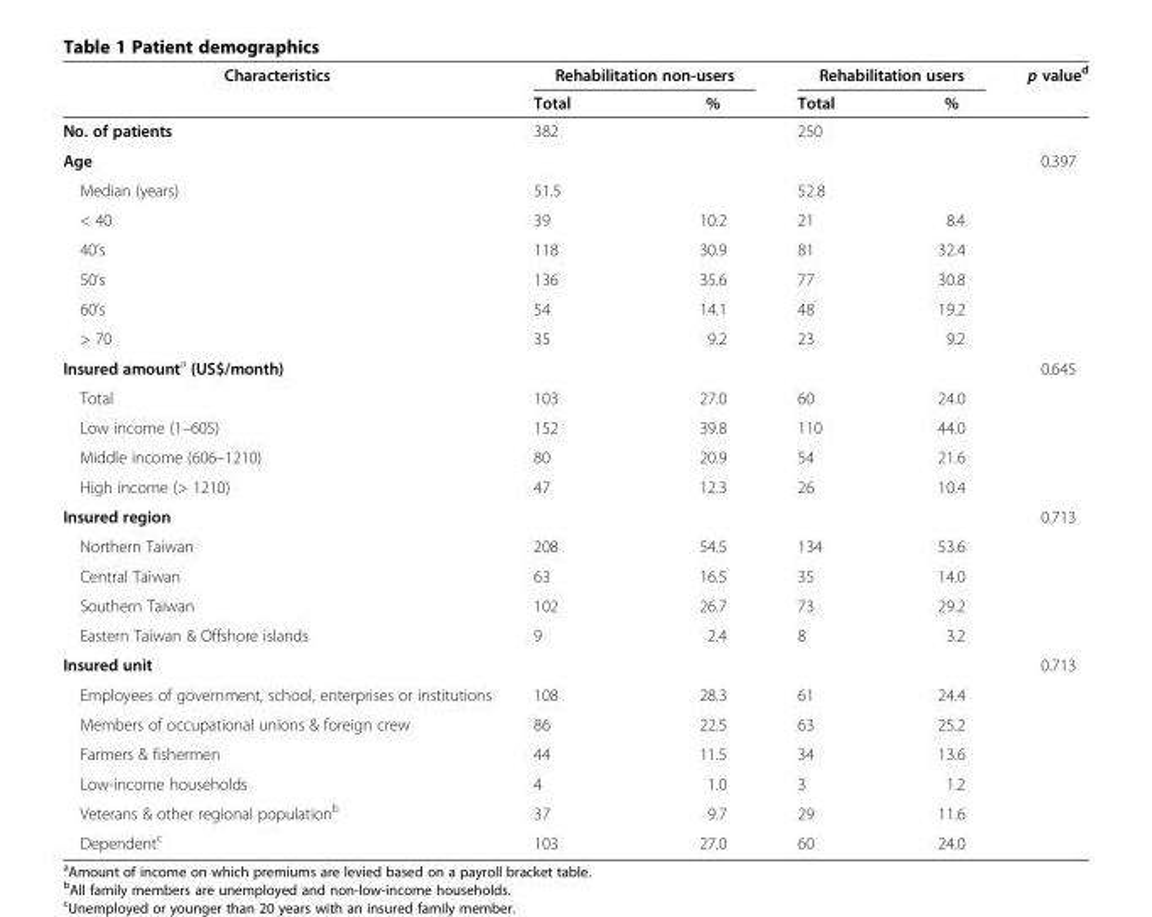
<table><thead><tr><td rowspan="2">Characteristics</td><td colspan="2">Rehabilitation non-users</td><td colspan="2">Rehabilitation users</td><td rowspan="2">p value<sup>d</sup></td></tr><tr><td>Total</td><td>%</td><td>Total</td><td>%</td></tr></thead><tbody><tr><td>No. of patients</td><td>382</td><td></td><td>250</td><td></td><td></td></tr><tr><td>Age</td><td></td><td></td><td></td><td></td><td>0.397</td></tr><tr><td>Median (years)</td><td>51.5</td><td></td><td>52.8</td><td></td><td></td></tr><tr><td>&lt; 40</td><td>39</td><td>10.2</td><td>21</td><td>8.4</td><td></td></tr><tr><td>40’s</td><td>118</td><td>30.9</td><td>81</td><td>32.4</td><td></td></tr><tr><td>50’s</td><td>136</td><td>35.6</td><td>77</td><td>30.8</td><td></td></tr><tr><td>60’s</td><td>54</td><td>14.1</td><td>48</td><td>19.2</td><td></td></tr><tr><td>&gt; 70</td><td>35</td><td>9.2</td><td>23</td><td>9.2</td><td></td></tr><tr><td>Insured amount<sup>a</sup> (US$/month)</td><td></td><td></td><td></td><td></td><td>0.645</td></tr><tr><td>Total</td><td>103</td><td>27.0</td><td>60</td><td>24.0</td><td></td></tr><tr><td>Low income (1–605)</td><td>152</td><td>39.8</td><td>110</td><td>44.0</td><td></td></tr><tr><td>Middle income (606–1210)</td><td>80</td><td>20.9</td><td>54</td><td>21.6</td><td></td></tr><tr><td>High income (&gt; 1210)</td><td>47</td><td>12.3</td><td>26</td><td>10.4</td><td></td></tr><tr><td>Insured region</td><td></td><td></td><td></td><td></td><td>0.713</td></tr><tr><td>Northern Taiwan</td><td>208</td><td>54.5</td><td>134</td><td>53.6</td><td></td></tr><tr><td>Central Taiwan</td><td>63</td><td>16.5</td><td>35</td><td>14.0</td><td></td></tr><tr><td>Southern Taiwan</td><td>102</td><td>26.7</td><td>73</td><td>29.2</td><td></td></tr><tr><td>Eastern Taiwan &amp; Offshore islands</td><td>9</td><td>2.4</td><td>8</td><td>3.2</td><td></td></tr><tr><td>Insured unit</td><td></td><td></td><td></td><td></td><td>0.713</td></tr><tr><td>Employees of government, school, enterprises or institutions</td><td>108</td><td>28.3</td><td>61</td><td>24.4</td><td></td></tr><tr><td>Members of occupational unions &amp; foreign crew</td><td>86</td><td>22.5</td><td>63</td><td>25.2</td><td></td></tr><tr><td>Farmers &amp; fishermen</td><td>44</td><td>11.5</td><td>34</td><td>13.6</td><td></td></tr><tr><td>Low-income households</td><td>4</td><td>1.0</td><td>3</td><td>1.2</td><td></td></tr><tr><td>Veterans &amp; other regional population<sup>b</sup></td><td>37</td><td>9.7</td><td>29</td><td>11.6</td><td></td></tr><tr><td>Dependent<sup>c</sup></td><td>103</td><td>27.0</td><td>60</td><td>24.0</td><td></td></tr></tbody></table>